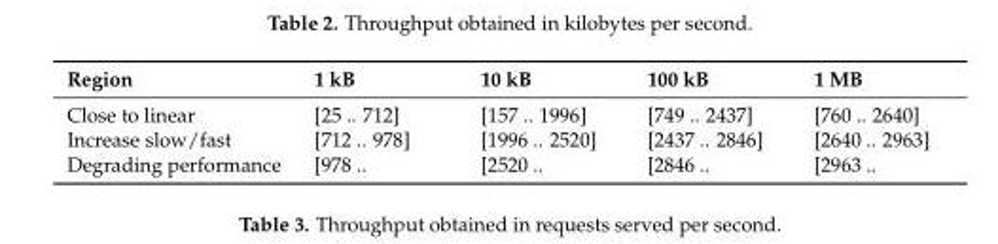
<table><thead><tr><td>Region</td><td>1 kB</td><td>10 kB</td><td>100 kB</td><td>1 MB</td></tr></thead><tbody><tr><td>Close to linear</td><td>[25 .. 712]</td><td>[157 .. 1996]</td><td>[749 .. 2437]</td><td>[760 .. 2640]</td></tr><tr><td>Increase slow/fast</td><td>[712 .. 978]</td><td>[1996 .. 2520]</td><td>[2437 .. 2846]</td><td>[2640 .. 2963]</td></tr><tr><td>Degrading performance</td><td>[978 ..</td><td>[2520 ..</td><td>[2846 ..</td><td>[2963 ..</td></tr></tbody></table>